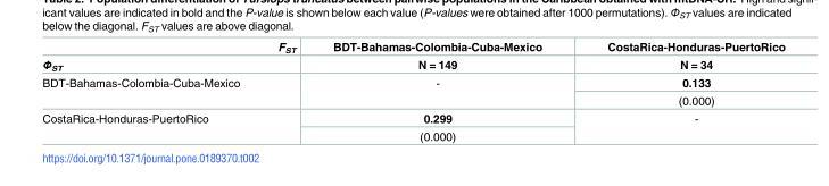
<table><thead><tr><td rowspan="2">F<sub>ST</sub> Ф<sub>ST</sub></td><td rowspan="2">BDT-Bahamas-Colombia-Cuba-Mexico N = 149</td><td rowspan="2">CostaRica-Honduras-PuertoRico N = 34</td></tr><tr></tr></thead><tbody><tr><td rowspan="2">BDT-Bahamas-Colombia-Cuba-Mexico</td><td rowspan="2">-</td><td>0.133</td></tr><tr><td>(0.000)</td></tr><tr><td rowspan="2">CostaRica-Honduras-PuertoRico</td><td>0.299</td><td rowspan="2">-</td></tr><tr><td>(0.000)</td></tr></tbody></table>